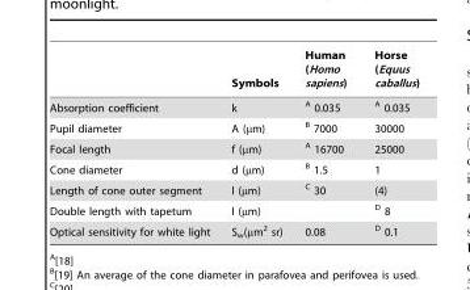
<table><thead><tr><td></td><td>Symbols</td><td>Human (Homo sapiens)</td><td>Horse (Equus caballus)</td></tr></thead><tbody><tr><td>Absorption coefficient</td><td>k</td><td>A 0.035</td><td>A 0.035</td></tr><tr><td>Pupil diameter</td><td>A (μm)</td><td>B 7000</td><td>30000</td></tr><tr><td>Focal length</td><td>f (μm)</td><td>A 16700</td><td>25000</td></tr><tr><td>Cone diameter</td><td>d (μm)</td><td>B 1.5</td><td>1</td></tr><tr><td>Length of cone outer segment</td><td>l (μm)</td><td>C 30</td><td>(4)</td></tr><tr><td>Double length with tapetum</td><td>l (μm)</td><td></td><td>D 8</td></tr><tr><td>Optical sensitivity for white light</td><td>S<sub>w</sub>(μm<sup>2</sup> sr)</td><td>0.08</td><td>D 0.1</td></tr></tbody></table>